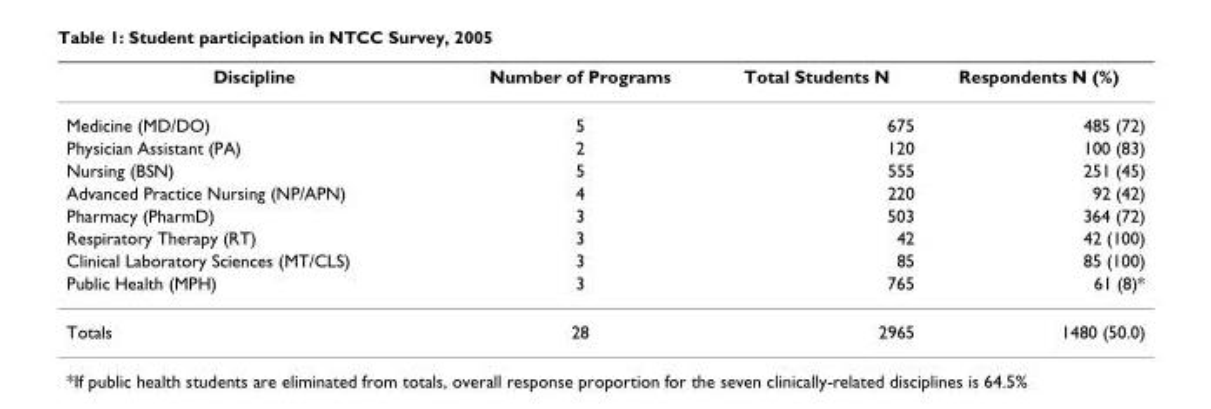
<table><thead><tr><td>Discipline</td><td>Number of Programs</td><td>Total Students N</td><td>Respondents N (%)</td></tr></thead><tbody><tr><td>Medicine (MD/DO)</td><td>5</td><td>675</td><td>485 (72)</td></tr><tr><td>Physician Assistant (PA)</td><td>2</td><td>120</td><td>100 (83)</td></tr><tr><td>Nursing (BSN)</td><td>5</td><td>555</td><td>251 (45)</td></tr><tr><td>Advanced Practice Nursing (NP/APN)</td><td>4</td><td>220</td><td>92 (42)</td></tr><tr><td>Pharmacy (PharmD)</td><td>3</td><td>503</td><td>364 (72)</td></tr><tr><td>Respiratory Therapy (RT)</td><td>3</td><td>42</td><td>42 (100)</td></tr><tr><td>Clinical Laboratory Sciences (MT/CLS)</td><td>3</td><td>85</td><td>85 (100)</td></tr><tr><td>Public Health (MPH)</td><td>3</td><td>765</td><td>61 (8)*</td></tr><tr><td>Totals</td><td>28</td><td>2965</td><td>1480 (50.0)</td></tr></tbody></table>